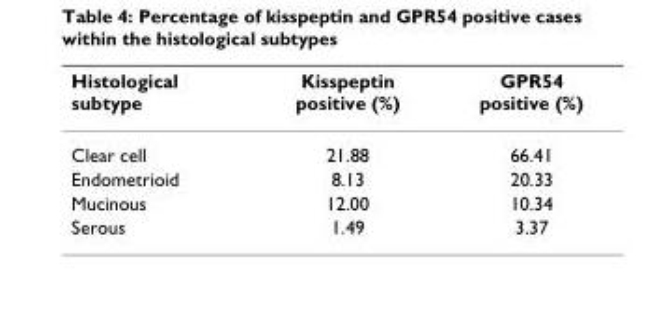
<table><thead><tr><td>Histological subtype</td><td>Kisspeptin positive (%)</td><td>GPR54 positive (%)</td></tr></thead><tbody><tr><td>Clear cell</td><td>21.88</td><td>66.41</td></tr><tr><td>Endometrioid</td><td>8.13</td><td>20.33</td></tr><tr><td>Mucinous</td><td>12.00</td><td>10.34</td></tr><tr><td>Serous</td><td>1.49</td><td>3.37</td></tr></tbody></table>